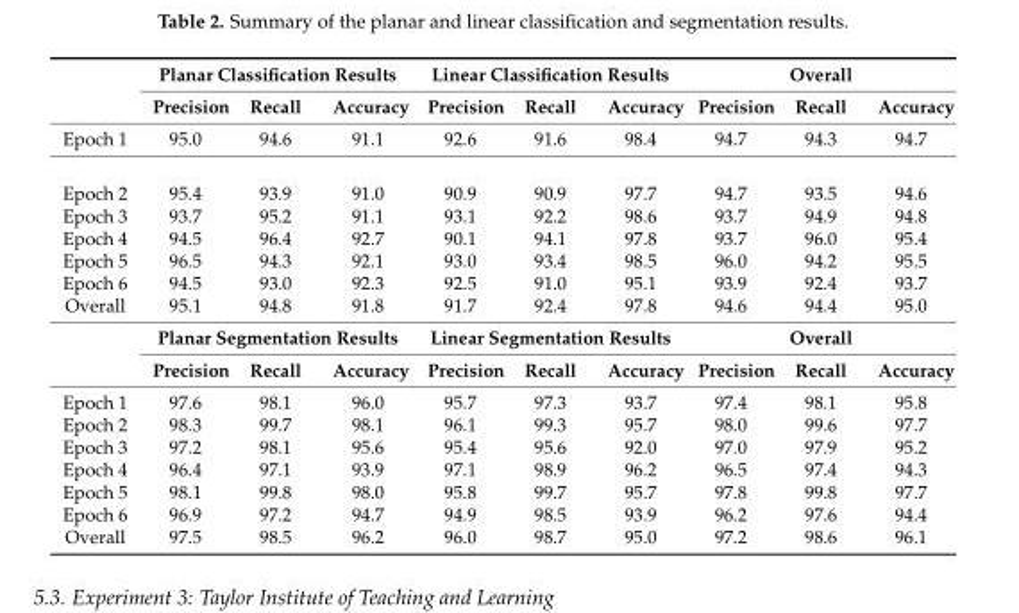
<table><thead><tr><td rowspan="2"></td><td colspan="3">Planar Classification Results</td><td colspan="3">Linear Classification Results</td><td colspan="3">Overall</td></tr><tr><td>Precision</td><td>Recall</td><td>Accuracy</td><td>Precision</td><td>Recall</td><td>Accuracy</td><td>Precision</td><td>Recall</td><td>Accuracy</td></tr></thead><tbody><tr><td>Epoch 1</td><td>95.0</td><td>94.6</td><td>91.1</td><td>92.6</td><td>91.6</td><td>98.4</td><td>94.7</td><td>94.3</td><td>94.7</td></tr><tr><td>Epoch 2</td><td>95.4</td><td>93.9</td><td>91.0</td><td>90.9</td><td>90.9</td><td>97.7</td><td>94.7</td><td>93.5</td><td>94.6</td></tr><tr><td>Epoch 3</td><td>93.7</td><td>95.2</td><td>91.1</td><td>93.1</td><td>92.2</td><td>98.6</td><td>93.7</td><td>94.9</td><td>94.8</td></tr><tr><td>Epoch 4</td><td>94.5</td><td>96.4</td><td>92.7</td><td>90.1</td><td>94.1</td><td>97.8</td><td>93.7</td><td>96.0</td><td>95.4</td></tr><tr><td>Epoch 5</td><td>96.5</td><td>94.3</td><td>92.1</td><td>93.0</td><td>93.4</td><td>98.5</td><td>96.0</td><td>94.2</td><td>95.5</td></tr><tr><td>Epoch 6</td><td>94.5</td><td>93.0</td><td>92.3</td><td>92.5</td><td>91.0</td><td>95.1</td><td>93.9</td><td>92.4</td><td>93.7</td></tr><tr><td rowspan="3">Overall</td><td>95.1</td><td>94.8</td><td>91.8</td><td>91.7</td><td>92.4</td><td>97.8</td><td>94.6</td><td>94.4</td><td>95.0</td></tr><tr><td colspan="3">Planar Segmentation Results</td><td colspan="3">Linear Segmentation Results</td><td colspan="3">Overall</td></tr><tr><td>Precision</td><td>Recall</td><td>Accuracy</td><td>Precision</td><td>Recall</td><td>Accuracy</td><td>Precision</td><td>Recall</td><td>Accuracy</td></tr><tr><td>Epoch 1</td><td>97.6</td><td>98.1</td><td>96.0</td><td>95.7</td><td>97.3</td><td>93.7</td><td>97.4</td><td>98.1</td><td>95.8</td></tr><tr><td>Epoch 2</td><td>98.3</td><td>99.7</td><td>98.1</td><td>96.1</td><td>99.3</td><td>95.7</td><td>98.0</td><td>99.6</td><td>97.7</td></tr><tr><td>Epoch 3</td><td>97.2</td><td>98.1</td><td>95.6</td><td>95.4</td><td>95.6</td><td>92.0</td><td>97.0</td><td>97.9</td><td>95.2</td></tr><tr><td>Epoch 4</td><td>96.4</td><td>97.1</td><td>93.9</td><td>97.1</td><td>98.9</td><td>96.2</td><td>96.5</td><td>97.4</td><td>94.3</td></tr><tr><td>Epoch 5</td><td>98.1</td><td>99.8</td><td>98.0</td><td>95.8</td><td>99.7</td><td>95.7</td><td>97.8</td><td>99.8</td><td>97.7</td></tr><tr><td>Epoch 6</td><td>96.9</td><td>97.2</td><td>94.7</td><td>94.9</td><td>98.5</td><td>93.9</td><td>96.2</td><td>97.6</td><td>94.4</td></tr><tr><td>Overall</td><td>97.5</td><td>98.5</td><td>96.2</td><td>96.0</td><td>98.7</td><td>95.0</td><td>97.2</td><td>98.6</td><td>96.1</td></tr></tbody></table>